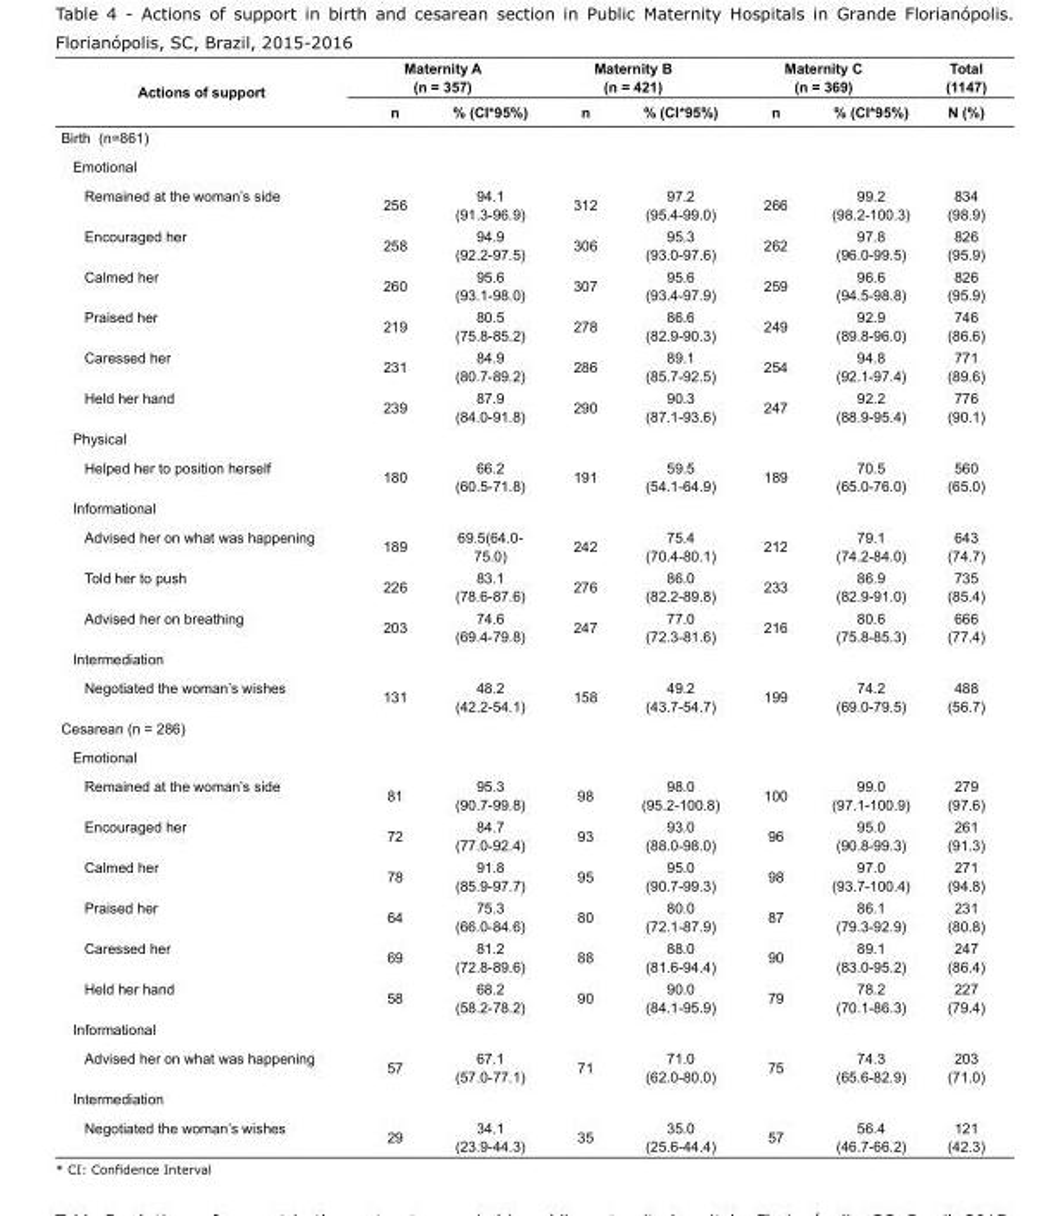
<table><tbody><tr><td rowspan="2">Actions of support</td><td colspan="2">Maternity A (n = 357)</td><td colspan="2">Maternity B (n = 421)</td><td colspan="2">Maternity C (n = 369)</td><td>Total (1147)</td></tr><tr><td>n</td><td>% (CI*95%)</td><td>n</td><td>% (CI*95%)</td><td>n</td><td>% (CI*95%)</td><td>N (%)</td></tr><tr><td colspan="8">Birth (n=861)</td></tr><tr><td colspan="8">Emotional</td></tr><tr><td>Remained at the woman’s side</td><td>256</td><td>94.1 (91.3-96.9)</td><td>312</td><td>97.2 (95.4-99.0)</td><td>266</td><td>99.2 (98.2-100.3)</td><td>834 (98.9)</td></tr><tr><td>Encouraged her</td><td>258</td><td>94.9 (92.2-97.5)</td><td>306</td><td>95.3 (93.0-97.6)</td><td>262</td><td>97.8 (96.0-99.5)</td><td>826 (95.9)</td></tr><tr><td>Calmed her</td><td>260</td><td>95.6 (93.1-98.0)</td><td>307</td><td>95.6 (93.4-97.9)</td><td>259</td><td>96.6 (94.5-98.8)</td><td>826 (95.9)</td></tr><tr><td>Praised her</td><td>219</td><td>80.5 (75.8-85.2)</td><td>278</td><td>86.6 (82.9-90.3)</td><td>249</td><td>92.9 (89.8-96.0)</td><td>746 (86.6)</td></tr><tr><td>Caressed her</td><td>231</td><td>84.9 (80.7-89.2)</td><td>286</td><td>89.1 (85.7-92.5)</td><td>254</td><td>94.8 (92.1-97.4)</td><td>771 (89.6)</td></tr><tr><td>Held her hand</td><td>239</td><td>87.9 (84.0-91.8)</td><td>290</td><td>90.3 (87.1-93.6)</td><td>247</td><td>92.2 (88.9-95.4)</td><td>776 (90.1)</td></tr><tr><td colspan="8">Physical</td></tr><tr><td>Helped her to position herself</td><td>180</td><td>66.2 (60.5-71.8)</td><td>191</td><td>59.5 (54.1-64.9)</td><td>189</td><td>70.5 (65.0-76.0)</td><td>560 (65.0)</td></tr><tr><td colspan="8">Informational</td></tr><tr><td>Advised her on what was happening</td><td>189</td><td>69.5(64.0- 75.0)</td><td>242</td><td>75.4 (70.4-80.1)</td><td>212</td><td>79.1 (74.2-84.0)</td><td>643 (74.7)</td></tr><tr><td>Told her to push</td><td>226</td><td>83.1 (78.6-87.6)</td><td>276</td><td>86.0 (82.2-89.8)</td><td>233</td><td>86.9 (82.9-91.0)</td><td>735 (85.4)</td></tr><tr><td>Advised her on breathing</td><td>203</td><td>74.6 (69.4-79.8)</td><td>247</td><td>77.0 (72.3-81.6)</td><td>216</td><td>80.6 (75.8-85.3)</td><td>666 (77.4)</td></tr><tr><td colspan="8">Intermediation</td></tr><tr><td>Negotiated the woman’s wishes</td><td>131</td><td>48.2 (42.2-54.1)</td><td>158</td><td>49.2 (43.7-54.7)</td><td>199</td><td>74.2 (69.0-79.5)</td><td>488 (56.7)</td></tr><tr><td colspan="8">Cesarean (n = 286)</td></tr><tr><td colspan="8">Emotional</td></tr><tr><td>Remained at the woman’s side</td><td>81</td><td>95.3 (90.7-99.8)</td><td>98</td><td>98.0 (95.2-100.8)</td><td>100</td><td>99.0 (97.1-100.9)</td><td>279 (97.6)</td></tr><tr><td>Encouraged her</td><td>72</td><td>84.7 (77.0-92.4)</td><td>93</td><td>93.0 (88.0-98.0)</td><td>96</td><td>95.0 (90.8-99.3)</td><td>261 (91.3)</td></tr><tr><td>Calmed her</td><td>78</td><td>91.8 (85.9-97.7)</td><td>95</td><td>95.0 (90.7-99.3)</td><td>98</td><td>97.0 (93.7-100.4)</td><td>271 (94.8)</td></tr><tr><td>Praised her</td><td>64</td><td>75.3 (66.0-84.6)</td><td>80</td><td>80.0 (72.1-87.9)</td><td>87</td><td>86.1 (79.3-92.9)</td><td>231 (80.8)</td></tr><tr><td>Caressed her</td><td>69</td><td>81.2 (72.8-89.6)</td><td>88</td><td>88.0 (81.6-94.4)</td><td>90</td><td>89.1 (83.0-95.2)</td><td>247 (86.4)</td></tr><tr><td>Held her hand</td><td>58</td><td>68.2 (58.2-78.2)</td><td>90</td><td>90.0 (84.1-95.9)</td><td>79</td><td>78.2 (70.1-86.3)</td><td>227 (79.4)</td></tr><tr><td colspan="8">Informational</td></tr><tr><td>Advised her on what was happening</td><td>57</td><td>67.1 (57.0-77.1)</td><td>71</td><td>71.0 (62.0-80.0)</td><td>75</td><td>74.3 (65.6-82.9)</td><td>203 (71.0)</td></tr><tr><td colspan="8">Intermediation</td></tr><tr><td>Negotiated the woman’s wishes</td><td>29</td><td>34.1 (23.9-44.3)</td><td>35</td><td>35.0 (25.6-44.4)</td><td>57</td><td>56.4 (46.7-66.2)</td><td>121 (42.3)</td></tr></tbody></table>